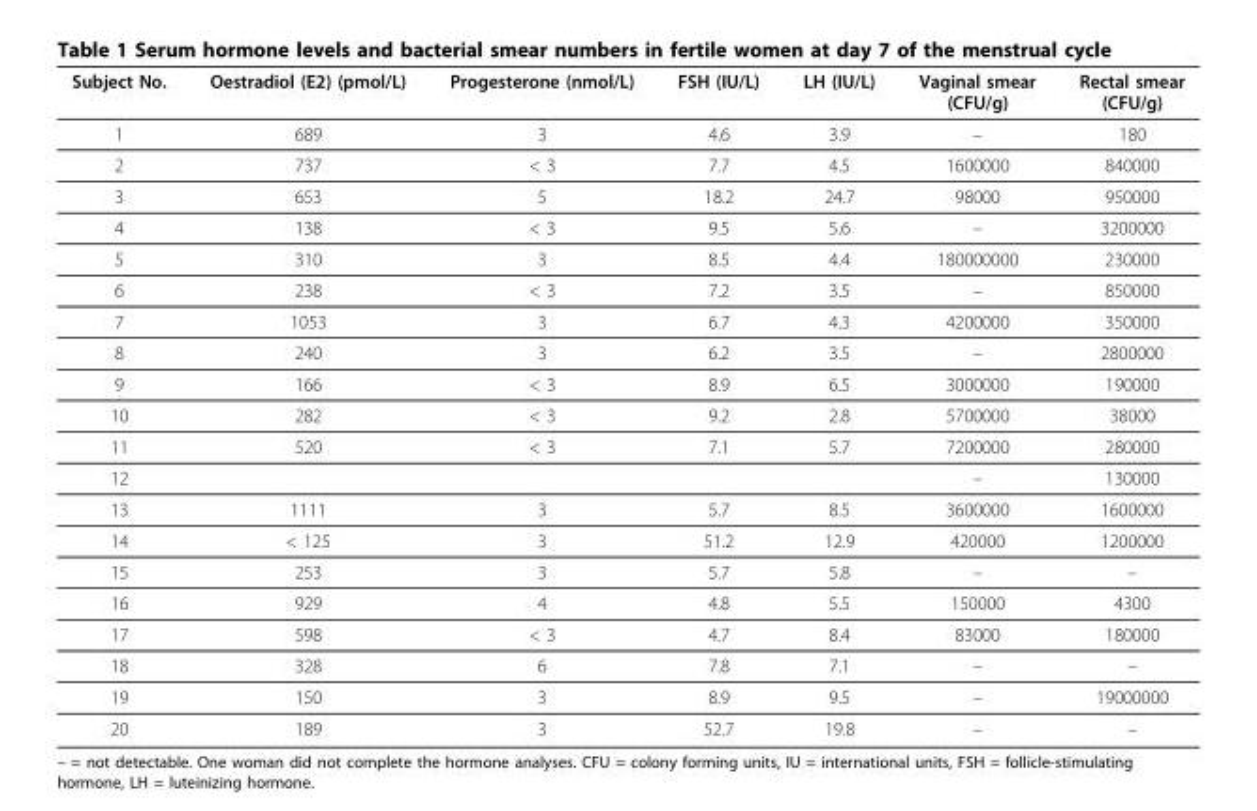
<table><thead><tr><td>Subject No.</td><td>Oestradiol (E2) (pmol/L)</td><td>Progesterone (nmol/L)</td><td>FSH (IU/L)</td><td>LH (IU/L)</td><td>Vaginal smear (CFU/g)</td><td>Rectal smear (CFU/g)</td></tr></thead><tbody><tr><td>1</td><td>689</td><td>3</td><td>4.6</td><td>3.9</td><td>–</td><td>180</td></tr><tr><td>2</td><td>737</td><td>&lt; 3</td><td>7.7</td><td>4.5</td><td>1600000</td><td>840000</td></tr><tr><td>3</td><td>653</td><td>5</td><td>18.2</td><td>24.7</td><td>98000</td><td>950000</td></tr><tr><td>4</td><td>138</td><td>&lt; 3</td><td>9.5</td><td>5.6</td><td>–</td><td>3200000</td></tr><tr><td>5</td><td>310</td><td>3</td><td>8.5</td><td>4.4</td><td>180000000</td><td>230000</td></tr><tr><td>6</td><td>238</td><td>&lt; 3</td><td>7.2</td><td>3.5</td><td>–</td><td>850000</td></tr><tr><td>7</td><td>1053</td><td>3</td><td>6.7</td><td>4.3</td><td>4200000</td><td>350000</td></tr><tr><td>8</td><td>240</td><td>3</td><td>6.2</td><td>3.5</td><td>–</td><td>2800000</td></tr><tr><td>9</td><td>166</td><td>&lt; 3</td><td>8.9</td><td>6.5</td><td>3000000</td><td>190000</td></tr><tr><td>10</td><td>282</td><td>&lt; 3</td><td>9.2</td><td>2.8</td><td>5700000</td><td>38000</td></tr><tr><td>11</td><td>520</td><td>&lt; 3</td><td>7.1</td><td>5.7</td><td>7200000</td><td>280000</td></tr><tr><td>12</td><td></td><td></td><td></td><td></td><td>–</td><td>130000</td></tr><tr><td>13</td><td>1111</td><td>3</td><td>5.7</td><td>8.5</td><td>3600000</td><td>1600000</td></tr><tr><td>14</td><td>&lt; 125</td><td>3</td><td>51.2</td><td>12.9</td><td>420000</td><td>1200000</td></tr><tr><td>15</td><td>253</td><td>3</td><td>5.7</td><td>5.8</td><td>–</td><td>–</td></tr><tr><td>16</td><td>929</td><td>4</td><td>4.8</td><td>5.5</td><td>150000</td><td>4300</td></tr><tr><td>17</td><td>598</td><td>&lt; 3</td><td>4.7</td><td>8.4</td><td>83000</td><td>180000</td></tr><tr><td>18</td><td>328</td><td>6</td><td>7.8</td><td>7.1</td><td>–</td><td>–</td></tr><tr><td>19</td><td>150</td><td>3</td><td>8.9</td><td>9.5</td><td>–</td><td>19000000</td></tr><tr><td>20</td><td>189</td><td>3</td><td>52.7</td><td>19.8</td><td>–</td><td>–</td></tr></tbody></table>